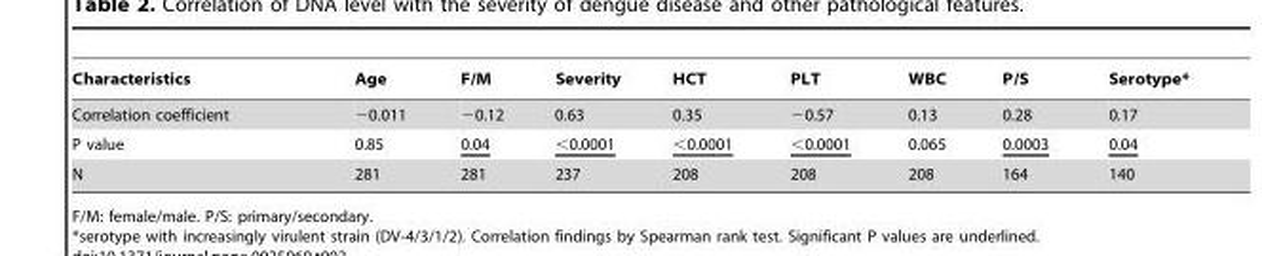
<table><thead><tr><td>Characteristics</td><td>Age</td><td>F/M</td><td>Severity</td><td>HCT</td><td>PLT</td><td>WBC</td><td>P/S</td><td>Serotype*</td></tr></thead><tbody><tr><td>Correlation coefficient</td><td>−0.011</td><td>−0.12</td><td>0.63</td><td>0.35</td><td>−0.57</td><td>0.13</td><td>0.28</td><td>0.17</td></tr><tr><td>P value</td><td>0.85</td><td>0.04</td><td>&lt;0.0001</td><td>&lt;0.0001</td><td>&lt;0.0001</td><td>0.065</td><td>0.0003</td><td>0.04</td></tr><tr><td>N</td><td>281</td><td>281</td><td>237</td><td>208</td><td>208</td><td>208</td><td>164</td><td>140</td></tr></tbody></table>